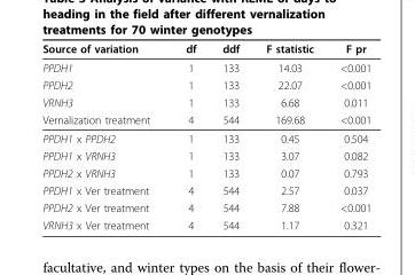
<table><thead><tr><td>Source of variation</td><td>df</td><td>ddf</td><td>F statistic</td><td>F pr</td></tr></thead><tbody><tr><td>PPDH1</td><td>1</td><td>133</td><td>14.03</td><td>&lt;0.001</td></tr><tr><td>PPDH2</td><td>1</td><td>133</td><td>22.07</td><td>&lt;0.001</td></tr><tr><td>VRNH3</td><td>1</td><td>133</td><td>6.68</td><td>0.011</td></tr><tr><td>Vernalization treatment</td><td>4</td><td>544</td><td>169.68</td><td>&lt;0.001</td></tr><tr><td>PPDH1 x PPDH2</td><td>1</td><td>133</td><td>0.45</td><td>0.504</td></tr><tr><td>PPDH1 x VRNH3</td><td>1</td><td>133</td><td>3.07</td><td>0.082</td></tr><tr><td>PPDH2 x VRNH3</td><td>1</td><td>133</td><td>0.07</td><td>0.793</td></tr><tr><td>PPDH1 x Ver treatment</td><td>4</td><td>544</td><td>2.57</td><td>0.037</td></tr><tr><td>PPDH2 x Ver treatment</td><td>4</td><td>544</td><td>7.88</td><td>&lt;0.001</td></tr><tr><td>VRNH3 x Ver treatment</td><td>4</td><td>544</td><td>1.17</td><td>0.321</td></tr></tbody></table>